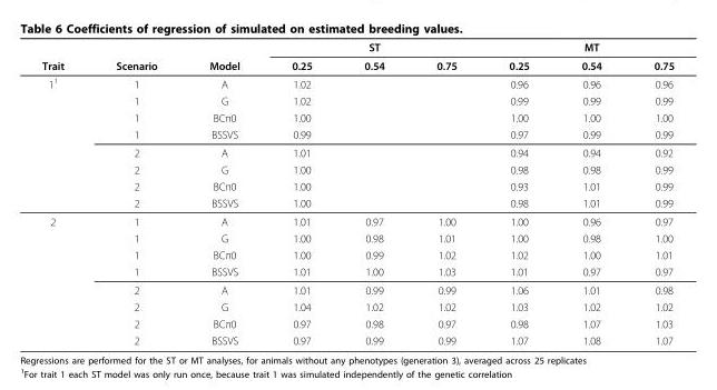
<table><thead><tr><td rowspan="2">Trait</td><td rowspan="2">Scenario</td><td rowspan="2">Model</td><td rowspan="2">0.25</td><td rowspan="2">ST 0.54</td><td rowspan="2">0.75</td><td rowspan="2">0.25</td><td rowspan="2">MT 0.54</td><td rowspan="2">0.75</td></tr><tr></tr></thead><tbody><tr><td rowspan="8">1<sup>1</sup></td><td>1</td><td>A</td><td>1.02</td><td></td><td></td><td>0.96</td><td>0.96</td><td>0.96</td></tr><tr><td>1</td><td>G</td><td>1.02</td><td></td><td></td><td>0.99</td><td>0.99</td><td>0.99</td></tr><tr><td>1</td><td>BCπ0</td><td>1.00</td><td></td><td></td><td>1.00</td><td>1.00</td><td>1.00</td></tr><tr><td>1</td><td>BSSVS</td><td>0.99</td><td></td><td></td><td>0.97</td><td>0.99</td><td>0.99</td></tr><tr><td>2</td><td>A</td><td>1.01</td><td></td><td></td><td>0.94</td><td>0.94</td><td>0.92</td></tr><tr><td>2</td><td>G</td><td>1.00</td><td></td><td></td><td>0.98</td><td>0.98</td><td>0.99</td></tr><tr><td>2</td><td>BCπ0</td><td>1.00</td><td></td><td></td><td>0.93</td><td>1.01</td><td>0.99</td></tr><tr><td>2</td><td>BSSVS</td><td>1.00</td><td></td><td></td><td>0.98</td><td>1.01</td><td>0.99</td></tr><tr><td rowspan="8">2</td><td>1</td><td>A</td><td>1.01</td><td>0.97</td><td>1.00</td><td>1.00</td><td>0.96</td><td>0.97</td></tr><tr><td>1</td><td>G</td><td>1.00</td><td>0.98</td><td>1.01</td><td>1.00</td><td>0.98</td><td>1.00</td></tr><tr><td>1</td><td>BCπ0</td><td>1.00</td><td>0.99</td><td>1.02</td><td>1.02</td><td>1.00</td><td>1.01</td></tr><tr><td>1</td><td>BSSVS</td><td>1.01</td><td>1.00</td><td>1.03</td><td>1.01</td><td>0.97</td><td>0.97</td></tr><tr><td>2</td><td>A</td><td>1.01</td><td>0.99</td><td>0.99</td><td>1.06</td><td>1.01</td><td>0.98</td></tr><tr><td>2</td><td>G</td><td>1.04</td><td>1.02</td><td>1.02</td><td>1.03</td><td>1.02</td><td>1.02</td></tr><tr><td>2</td><td>BCπ0</td><td>0.97</td><td>0.98</td><td>0.97</td><td>0.98</td><td>1.07</td><td>1.03</td></tr><tr><td>2</td><td>BSSVS</td><td>0.97</td><td>0.99</td><td>0.99</td><td>1.07</td><td>1.08</td><td>1.07</td></tr></tbody></table>